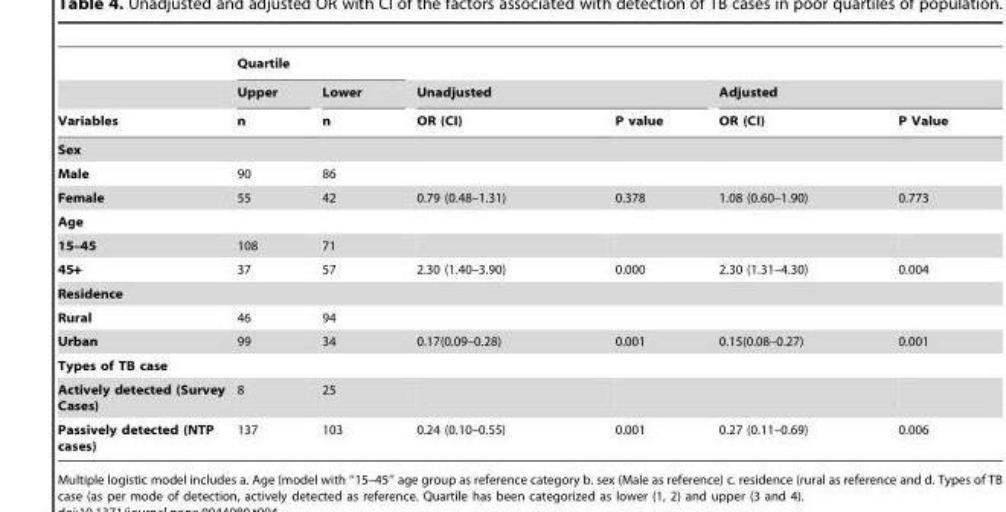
<table><thead><tr><td rowspan="3">Variables</td><td colspan="2">Quartile</td><td></td><td></td><td></td><td></td></tr><tr><td rowspan="2">Upper n</td><td rowspan="2">Lower n</td><td colspan="2">Unadjusted</td><td colspan="2">Adjusted</td></tr><tr><td>OR (CI)</td><td>P value</td><td>OR (CI)</td><td>P Value</td></tr></thead><tbody><tr><td colspan="7">Sex</td></tr><tr><td>Male</td><td>90</td><td>86</td><td></td><td></td><td></td><td></td></tr><tr><td>Female</td><td>55</td><td>42</td><td>0.79 (0.48–1.31)</td><td>0.378</td><td>1.08 (0.60–1.90)</td><td>0.773</td></tr><tr><td colspan="7">Age</td></tr><tr><td>15–45</td><td>108</td><td>71</td><td></td><td></td><td></td><td></td></tr><tr><td>45+</td><td>37</td><td>57</td><td>2.30 (1.40–3.90)</td><td>0.000</td><td>2.30 (1.31–4.30)</td><td>0.004</td></tr><tr><td colspan="7">Residence</td></tr><tr><td>Rural</td><td>46</td><td>94</td><td></td><td></td><td></td><td></td></tr><tr><td>Urban</td><td>99</td><td>34</td><td>0.17(0.09–0.28)</td><td>0.001</td><td>0.15(0.08–0.27)</td><td>0.001</td></tr><tr><td colspan="7">Types of TB case</td></tr><tr><td>Actively detected (Survey Cases)</td><td>8</td><td>25</td><td></td><td></td><td></td><td></td></tr><tr><td>Passively detected (NTP cases)</td><td>137</td><td>103</td><td>0.24 (0.10–0.55)</td><td>0.001</td><td>0.27 (0.11–0.69)</td><td>0.006</td></tr></tbody></table>